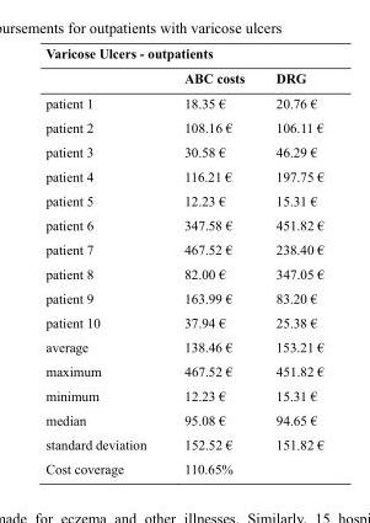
<table><thead><tr><td colspan="3">Varicose Ulcers - outpatients</td></tr><tr><td></td><td>ABC costs</td><td>DRG</td></tr></thead><tbody><tr><td>patient 1</td><td>18.35 €</td><td>20.76 €</td></tr><tr><td>patient 2</td><td>108.16 €</td><td>106.11 €</td></tr><tr><td>patient 3</td><td>30.58 €</td><td>46.29 €</td></tr><tr><td>patient 4</td><td>116.21 €</td><td>197.75 €</td></tr><tr><td>patient 5</td><td>12.23 €</td><td>15.31 €</td></tr><tr><td>patient 6</td><td>347.58 €</td><td>451.82 €</td></tr><tr><td>patient 7</td><td>467.52 €</td><td>238.40 €</td></tr><tr><td>patient 8</td><td>82.00 €</td><td>347.05 €</td></tr><tr><td>patient 9</td><td>163.99 €</td><td>83.20 €</td></tr><tr><td>patient 10</td><td>37.94 €</td><td>25.38 €</td></tr><tr><td>average</td><td>138.46 €</td><td>153.21 €</td></tr><tr><td>maximum</td><td>467.52 €</td><td>451.82 €</td></tr><tr><td>minimum</td><td>12.23 €</td><td>15.31 €</td></tr><tr><td>median</td><td>95.08 €</td><td>94.65 €</td></tr><tr><td>standard deviation</td><td>152.52 €</td><td>151.82 €</td></tr><tr><td>Cost coverage</td><td colspan="2">110.65%</td></tr></tbody></table>